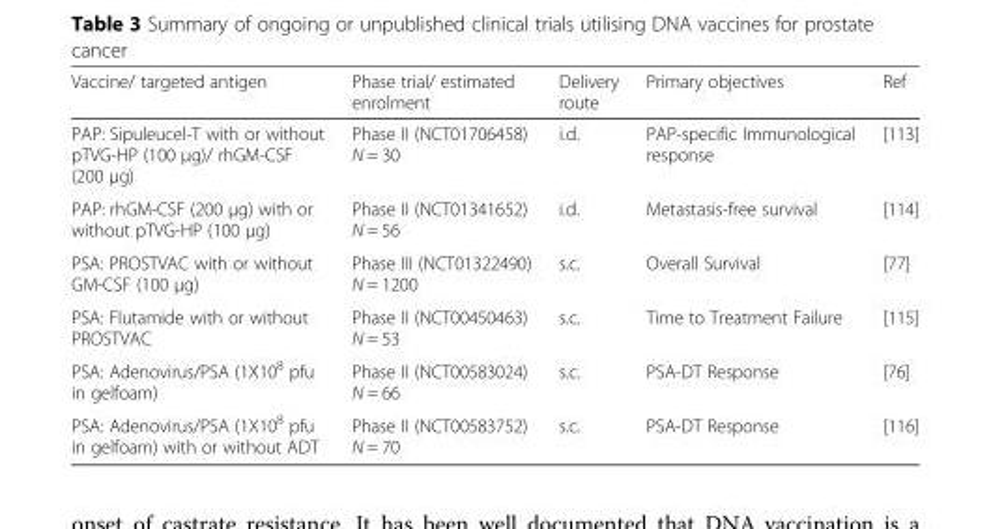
<table><thead><tr><td>Vaccine/ targeted antigen</td><td>Phase trial/ estimated enrolment</td><td>Delivery route</td><td>Primary objectives</td><td>Ref</td></tr></thead><tbody><tr><td>PAP: Sipuleucel-T with or without pTVG-HP (100 μg)/ rhGM-CSF (200 μg)</td><td>Phase II (NCT01706458) N = 30</td><td>i.d.</td><td>PAP-specific Immunological response</td><td>[113]</td></tr><tr><td>PAP: rhGM-CSF (200 μg) with or without pTVG-HP (100 μg)</td><td>Phase II (NCT01341652) N = 56</td><td>i.d.</td><td>Metastasis-free survival</td><td>[114]</td></tr><tr><td>PSA: PROSTVAC with or without GM-CSF (100 μg)</td><td>Phase III (NCT01322490) N = 1200</td><td>s.c.</td><td>Overall Survival</td><td>[77]</td></tr><tr><td>PSA: Flutamide with or without PROSTVAC</td><td>Phase II (NCT00450463) N = 53</td><td>s.c.</td><td>Time to Treatment Failure</td><td>[115]</td></tr><tr><td>PSA: Adenovirus/PSA (1X10<sup>8</sup> pfu in gelfoam)</td><td>Phase II (NCT00583024) N = 66</td><td>s.c.</td><td>PSA-DT Response</td><td>[76]</td></tr><tr><td>PSA: Adenovirus/PSA (1X10<sup>8</sup> pfu in gelfoam) with or without ADT</td><td>Phase II (NCT00583752) N = 70</td><td>s.c.</td><td>PSA-DT Response</td><td>[116]</td></tr></tbody></table>